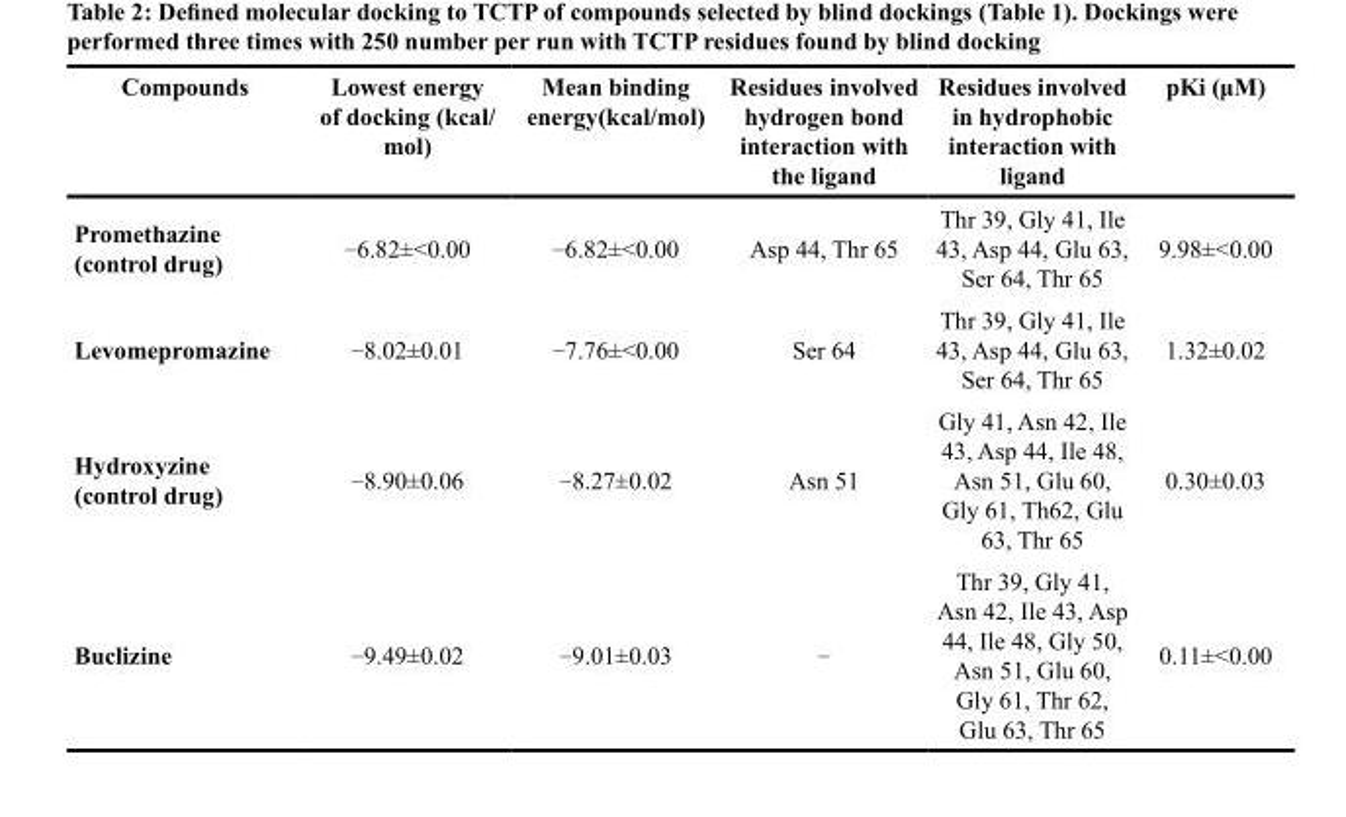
<table><thead><tr><td>Compounds</td><td>Lowest energy of docking (kcal/ mol)</td><td>Mean binding energy(kcal/mol)</td><td>Residues involved hydrogen bond interaction with the ligand</td><td>Residues involved in hydrophobic interaction with ligand</td><td>pKi (μM)</td></tr></thead><tbody><tr><td>Promethazine (control drug)</td><td>−6.82±&lt;0.00</td><td>−6.82±&lt;0.00</td><td>Asp 44, Thr 65</td><td>Thr 39, Gly 41, Ile 43, Asp 44, Glu 63, Ser 64, Thr 65</td><td>9.98±&lt;0.00</td></tr><tr><td>Levomepromazine</td><td>−8.02±0.01</td><td>−7.76±&lt;0.00</td><td>Ser 64</td><td>Thr 39, Gly 41, Ile 43, Asp 44, Glu 63, Ser 64, Thr 65</td><td>1.32±0.02</td></tr><tr><td>Hydroxyzine (control drug)</td><td>−8.90±0.06</td><td>−8.27±0.02</td><td>Asn 51</td><td>Gly 41, Asn 42, Ile 43, Asp 44, Ile 48, Asn 51, Glu 60, Gly 61, Th62, Glu 63, Thr 65</td><td>0.30±0.03</td></tr><tr><td>Buclizine</td><td>−9.49±0.02</td><td>−9.01±0.03</td><td>−</td><td>Thr 39, Gly 41, Asn 42, Ile 43, Asp 44, Ile 48, Gly 50, Asn 51, Glu 60, Gly 61, Thr 62, Glu 63, Thr 65</td><td>0.11±&lt;0.00</td></tr></tbody></table>